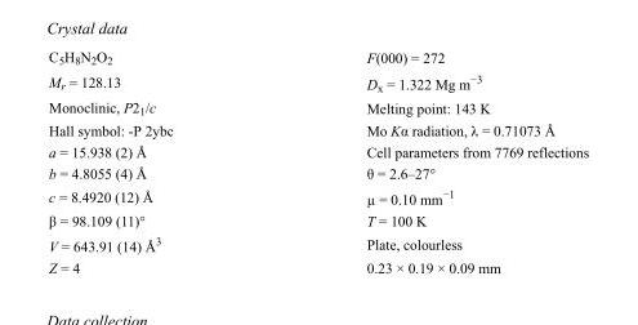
<table><tbody><tr><td>C<sub>5</sub>H<sub>8</sub>N<sub>2</sub>O<sub>2</sub></td><td>F(000) = 272</td></tr><tr><td>M<sub>r</sub> = 128.13</td><td>D<sub>x</sub> = 1.322 Mg m<sup>−3</sup></td></tr><tr><td>Monoclinic, P2<sub>1</sub>/c</td><td>Melting point: 143 K</td></tr><tr><td>Hall symbol: -P 2ybc</td><td>Mo Kα radiation, λ = 0.71073 Å</td></tr><tr><td>a = 15.938 (2) Å</td><td>Cell parameters from 7769 reflections</td></tr><tr><td>b = 4.8055 (4) Å</td><td>θ = 2.6–27°</td></tr><tr><td>c = 8.4920 (12) Å</td><td>µ = 0.10 mm<sup>−1</sup></td></tr><tr><td>β = 98.109 (11)°</td><td>T = 100 K</td></tr><tr><td>V = 643.91 (14) Å<sup>3</sup></td><td>Plate, colourless</td></tr><tr><td>Z = 4</td><td>0.23 × 0.19 × 0.09 mm</td></tr></tbody></table>